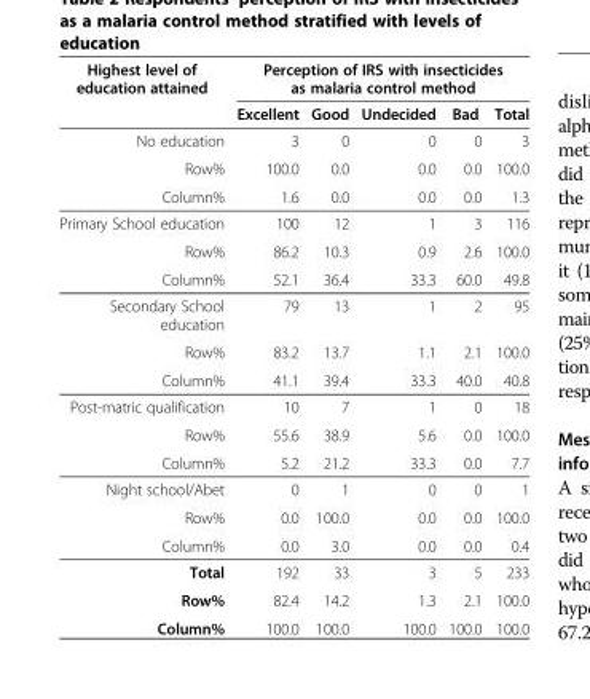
<table><thead><tr><td rowspan="2">Highest level of education attained</td><td colspan="5">Perception of IRS with insecticides as malaria control method</td></tr><tr><td>Excellent</td><td>Good</td><td>Undecided</td><td>Bad</td><td>Total</td></tr></thead><tbody><tr><td>No education</td><td>3</td><td>0</td><td>0</td><td>0</td><td>3</td></tr><tr><td>Row%</td><td>100.0</td><td>0.0</td><td>0.0</td><td>0.0</td><td>100.0</td></tr><tr><td>Column%</td><td>1.6</td><td>0.0</td><td>0.0</td><td>0.0</td><td>1.3</td></tr><tr><td>Primary School education</td><td>100</td><td>12</td><td>1</td><td>3</td><td>116</td></tr><tr><td>Row%</td><td>86.2</td><td>10.3</td><td>0.9</td><td>2.6</td><td>100.0</td></tr><tr><td>Column%</td><td>52.1</td><td>36.4</td><td>33.3</td><td>60.0</td><td>49.8</td></tr><tr><td>Secondary School education</td><td>79</td><td>13</td><td>1</td><td>2</td><td>95</td></tr><tr><td>Row%</td><td>83.2</td><td>13.7</td><td>1.1</td><td>2.1</td><td>100.0</td></tr><tr><td>Column%</td><td>41.1</td><td>39.4</td><td>33.3</td><td>40.0</td><td>40.8</td></tr><tr><td>Post-matric qualification</td><td>10</td><td>7</td><td>1</td><td>0</td><td>18</td></tr><tr><td>Row%</td><td>55.6</td><td>38.9</td><td>5.6</td><td>0.0</td><td>100.0</td></tr><tr><td>Column%</td><td>5.2</td><td>21.2</td><td>33.3</td><td>0.0</td><td>7.7</td></tr><tr><td>Night school/Abet</td><td>0</td><td>1</td><td>0</td><td>0</td><td>1</td></tr><tr><td>Row%</td><td>0.0</td><td>100.0</td><td>0.0</td><td>0.0</td><td>100.0</td></tr><tr><td>Column%</td><td>0.0</td><td>3.0</td><td>0.0</td><td>0.0</td><td>0.4</td></tr><tr><td>Total</td><td>192</td><td>33</td><td>3</td><td>5</td><td>233</td></tr><tr><td>Row%</td><td>82.4</td><td>14.2</td><td>1.3</td><td>2.1</td><td>100.0</td></tr><tr><td>Column%</td><td>100.0</td><td>100.0</td><td>100.0</td><td>100.0</td><td>100.0</td></tr></tbody></table>